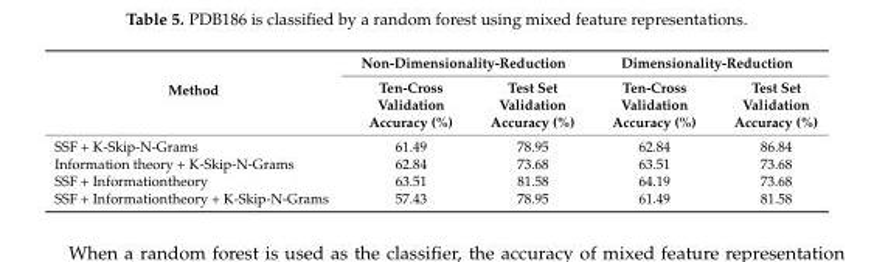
<table><thead><tr><td rowspan="2">Method</td><td colspan="2">Non-Dimensionality-Reduction</td><td colspan="2">Dimensionality-Reduction</td></tr><tr><td>Ten-Cross Validation Accuracy (%)</td><td>Test Set Validation Accuracy (%)</td><td>Ten-Cross Validation Accuracy (%)</td><td>Test Set Validation Accuracy (%)</td></tr></thead><tbody><tr><td>SSF + K-Skip-N-Grams</td><td>61.49</td><td>78.95</td><td>62.84</td><td>86.84</td></tr><tr><td>Information theory + K-Skip-N-Grams</td><td>62.84</td><td>73.68</td><td>63.51</td><td>73.68</td></tr><tr><td>SSF + Informationtheory</td><td>63.51</td><td>81.58</td><td>64.19</td><td>73.68</td></tr><tr><td>SSF + Informationtheory + K-Skip-N-Grams</td><td>57.43</td><td>78.95</td><td>61.49</td><td>81.58</td></tr></tbody></table>